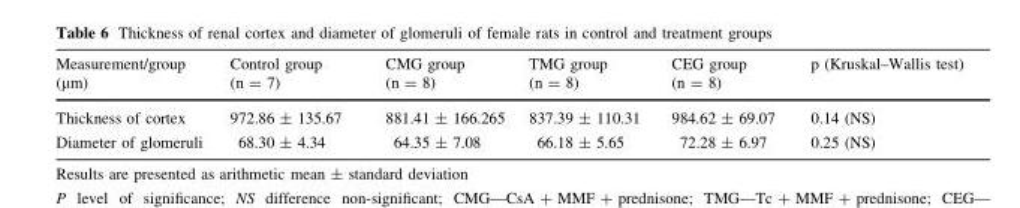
<table><thead><tr><td>Measurement/group (µm)</td><td>Control group (n = 7)</td><td>CMG group (n = 8)</td><td>TMG group (n = 8)</td><td>CEG group (n = 8)</td><td>p (Kruskal–Wallis test)</td></tr></thead><tbody><tr><td>Thickness of cortex</td><td>972.86 ± 135.67</td><td>881.41 ± 166.265</td><td>837.39 ± 110.31</td><td>984.62 ± 69.07</td><td>0.14 (NS)</td></tr><tr><td>Diameter of glomeruli</td><td>68.30 ± 4.34</td><td>64.35 ± 7.08</td><td>66.18 ± 5.65</td><td>72.28 ± 6.97</td><td>0.25 (NS)</td></tr></tbody></table>